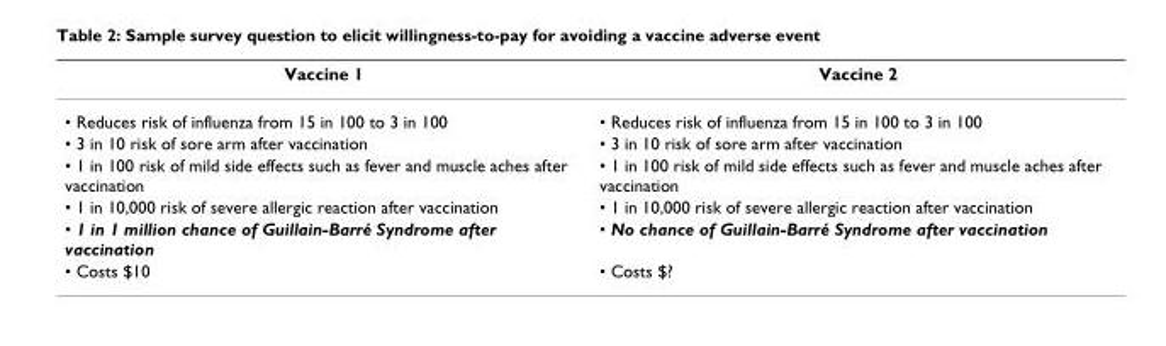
<table><thead><tr><td>Vaccine 1</td><td>Vaccine 2</td></tr></thead><tbody><tr><td>• Reduces risk of influenza from 15 in 100 to 3 in 100</td><td>• Reduces risk of influenza from 15 in 100 to 3 in 100</td></tr><tr><td>• 3 in 10 risk of sore arm after vaccination</td><td>• 3 in 10 risk of sore arm after vaccination</td></tr><tr><td>• 1 in 100 risk of mild side effects such as fever and muscle aches after vaccination</td><td>• 1 in 100 risk of mild side effects such as fever and muscle aches after vaccination</td></tr><tr><td>• 1 in 10,000 risk of severe allergic reaction after vaccination</td><td>• 1 in 10,000 risk of severe allergic reaction after vaccination</td></tr><tr><td>• 1 in 1 million chance of Guillain-Barré Syndrome after vaccination</td><td>• No chance of Guillain-Barré Syndrome after vaccination</td></tr><tr><td>• Costs $10</td><td>• Costs $?</td></tr></tbody></table>